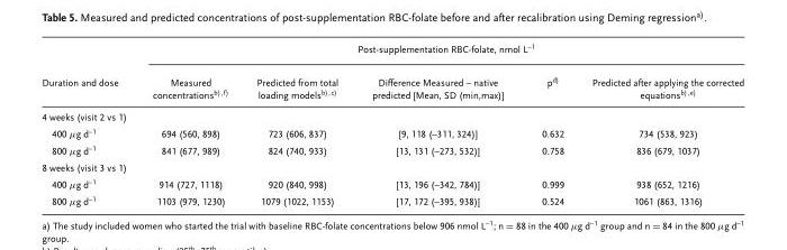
<table><thead><tr><td rowspan="2">Duration and dose</td><td colspan="5">Post-supplementation RBC-folate, nmol L<sup>–1</sup></td></tr><tr><td>Measured concentrationsb),f)</td><td>Predicted from total loading modelsb),c)</td><td>Difference Measured – native predicted [Mean, SD (min,max)]</td><td>pd)</td><td>Predicted after applying the corrected equationsb),e)</td></tr></thead><tbody><tr><td colspan="6">4 weeks (visit 2 vs 1)</td></tr><tr><td>400 μg d<sup>–1</sup></td><td>694 (560, 898)</td><td>723 (606, 837)</td><td>[9, 118 (–311, 324)]</td><td>0.632</td><td>734 (538, 923)</td></tr><tr><td>800 μg d<sup>–1</sup></td><td>841 (677, 989)</td><td>824 (740, 933)</td><td>[13, 131 (–273, 532)]</td><td>0.758</td><td>836 (679, 1037)</td></tr><tr><td colspan="6">8 weeks (visit 3 vs 1)</td></tr><tr><td>400 μg d<sup>–1</sup></td><td>914 (727, 1118)</td><td>920 (840, 998)</td><td>[13, 196 (–342, 784)]</td><td>0.999</td><td>938 (652, 1216)</td></tr><tr><td>800 μg d<sup>–1</sup></td><td>1103 (979, 1230)</td><td>1079 (1022, 1153)</td><td>[17, 172 (–395, 938)]</td><td>0.524</td><td>1061 (863, 1316)</td></tr></tbody></table>